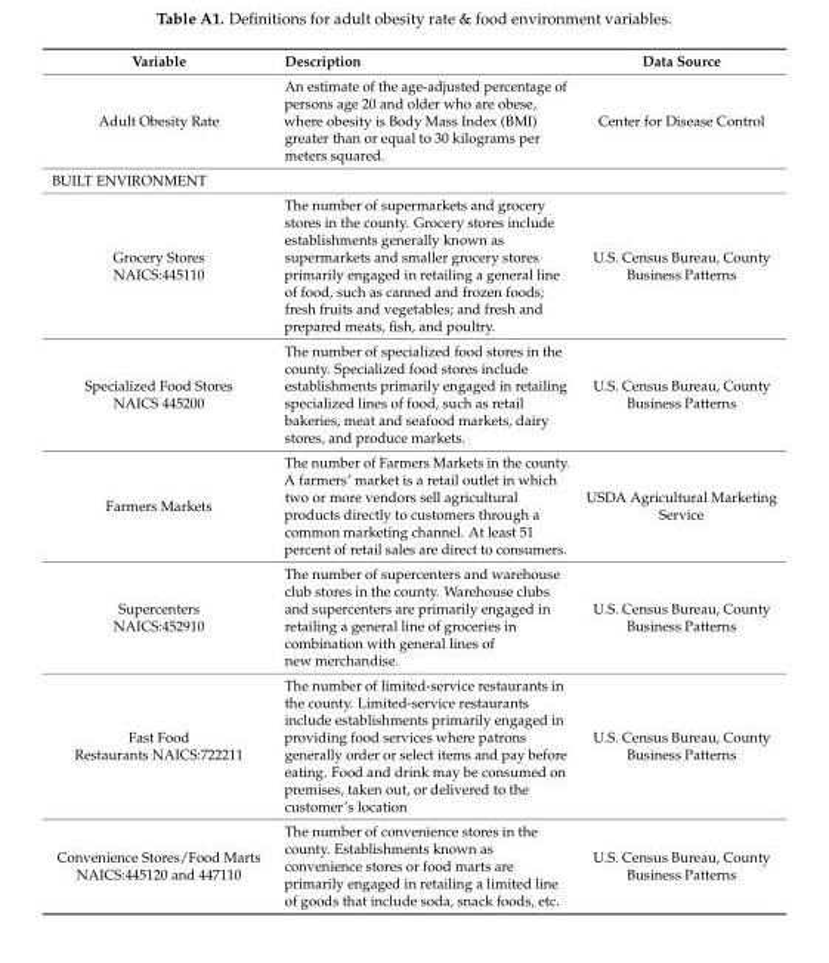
<table><thead><tr><td>Variable</td><td>Description</td><td>Data Source</td></tr></thead><tbody><tr><td>Adult Obesity Rate</td><td>An estimate of the age-adjusted percentage of persons age 20 and older who are obese, where obesity is Body Mass Index (BMI) greater than or equal to 30 kilograms per meters squared.</td><td>Center for Disease Control</td></tr><tr><td colspan="3">BUILT ENVIRONMENT</td></tr><tr><td>Grocery Stores NAICS:445110</td><td>The number of supermarkets and grocery stores in the county. Grocery stores include establishments generally known as supermarkets and smaller grocery stores primarily engaged in retailing a general line of food, such as canned and frozen foods; fresh fruits and vegetables; and fresh and prepared meats, fish, and poultry.</td><td>U.S. Census Bureau, County Business Patterns</td></tr><tr><td>Specialized Food Stores NAICS 445200</td><td>The number of specialized food stores in the county. Specialized food stores include establishments primarily engaged in retailing specialized lines of food, such as retail bakeries, meat and seafood markets, dairy stores, and produce markets.</td><td>U.S. Census Bureau, County Business Patterns</td></tr><tr><td>Farmers Markets</td><td>The number of Farmers Markets in the county. A farmers’ market is a retail outlet in which two or more vendors sell agricultural products directly to customers through a common marketing channel. At least 51 percent of retail sales are direct to consumers.</td><td>USDA Agricultural Marketing Service</td></tr><tr><td>Supercenters NAICS:452910</td><td>The number of supercenters and warehouse club stores in the county. Warehouse clubs and supercenters are primarily engaged in retailing a general line of groceries in combination with general lines of new merchandise.</td><td>U.S. Census Bureau, County Business Patterns</td></tr><tr><td>Fast Food Restaurants NAICS:722211</td><td>The number of limited-service restaurants in the county. Limited-service restaurants include establishments primarily engaged in providing food services where patrons generally order or select items and pay before eating. Food and drink may be consumed on premises, taken out, or delivered to the customer’s location</td><td>U.S. Census Bureau, County Business Patterns</td></tr><tr><td>Convenience Stores/Food Marts NAICS:445120 and 447110</td><td>The number of convenience stores in the county. Establishments known as convenience stores or food marts are primarily engaged in retailing a limited line of goods that include soda, snack foods, etc.</td><td>U.S. Census Bureau, County Business Patterns</td></tr></tbody></table>